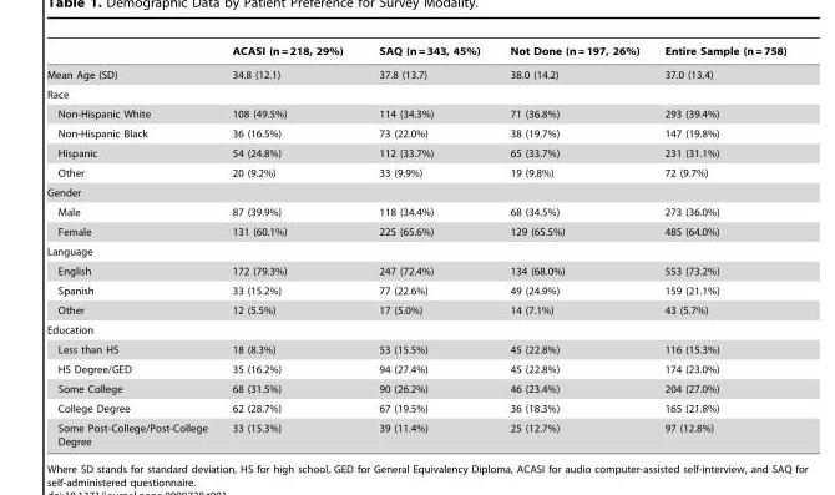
<table><thead><tr><td></td><td>ACASI (n = 218, 29%)</td><td>SAQ (n = 343, 45%)</td><td>Not Done (n = 197, 26%)</td><td>Entire Sample (n = 758)</td></tr></thead><tbody><tr><td>Mean Age (SD)</td><td>34.8 (12.1)</td><td>37.8 (13.7)</td><td>38.0 (14.2)</td><td>37.0 (13.4)</td></tr><tr><td colspan="5">Race</td></tr><tr><td>Non-Hispanic White</td><td>108 (49.5%)</td><td>114 (34.3%)</td><td>71 (36.8%)</td><td>293 (39.4%)</td></tr><tr><td>Non-Hispanic Black</td><td>36 (16.5%)</td><td>73 (22.0%)</td><td>38 (19.7%)</td><td>147 (19.8%)</td></tr><tr><td>Hispanic</td><td>54 (24.8%)</td><td>112 (33.7%)</td><td>65 (33.7%)</td><td>231 (31.1%)</td></tr><tr><td>Other</td><td>20 (9.2%)</td><td>33 (9.9%)</td><td>19 (9.8%)</td><td>72 (9.7%)</td></tr><tr><td colspan="5">Gender</td></tr><tr><td>Male</td><td>87 (39.9%)</td><td>118 (34.4%)</td><td>68 (34.5%)</td><td>273 (36.0%)</td></tr><tr><td>Female</td><td>131 (60.1%)</td><td>225 (65.6%)</td><td>129 (65.5%)</td><td>485 (64.0%)</td></tr><tr><td colspan="5">Language</td></tr><tr><td>English</td><td>172 (79.3%)</td><td>247 (72.4%)</td><td>134 (68.0%)</td><td>553 (73.2%)</td></tr><tr><td>Spanish</td><td>33 (15.2%)</td><td>77 (22.6%)</td><td>49 (24.9%)</td><td>159 (21.1%)</td></tr><tr><td>Other</td><td>12 (5.5%)</td><td>17 (5.0%)</td><td>14 (7.1%)</td><td>43 (5.7%)</td></tr><tr><td colspan="5">Education</td></tr><tr><td>Less than HS</td><td>18 (8.3%)</td><td>53 (15.5%)</td><td>45 (22.8%)</td><td>116 (15.3%)</td></tr><tr><td>HS Degree/GED</td><td>35 (16.2%)</td><td>94 (27.4%)</td><td>45 (22.8%)</td><td>174 (23.0%)</td></tr><tr><td>Some College</td><td>68 (31.5%)</td><td>90 (26.2%)</td><td>46 (23.4%)</td><td>204 (27.0%)</td></tr><tr><td>College Degree</td><td>62 (28.7%)</td><td>67 (19.5%)</td><td>36 (18.3%)</td><td>165 (21.8%)</td></tr><tr><td>Some Post-College/Post-College Degree</td><td>33 (15.3%)</td><td>39 (11.4%)</td><td>25 (12.7%)</td><td>97 (12.8%)</td></tr></tbody></table>